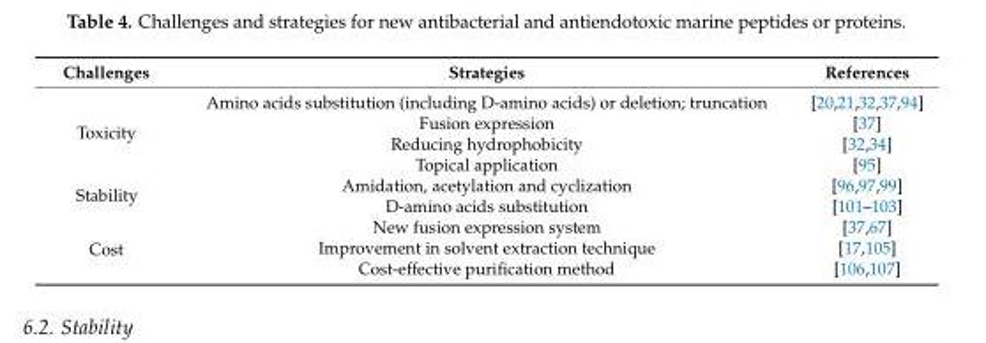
<table><thead><tr><td>Challenges</td><td>Strategies</td><td>References</td></tr></thead><tbody><tr><td rowspan="4">Toxicity</td><td>Amino acids substitution (including D-amino acids) or deletion; truncation</td><td>[20,21,32,37,94]</td></tr><tr><td>Fusion expression</td><td>[37]</td></tr><tr><td>Reducing hydrophobicity</td><td>[32,34]</td></tr><tr><td>Topical application</td><td>[95]</td></tr><tr><td rowspan="2">Stability</td><td>Amidation, acetylation and cyclization</td><td>[96,97,99]</td></tr><tr><td>D-amino acids substitution</td><td>[101–103]</td></tr><tr><td rowspan="3">Cost</td><td>New fusion expression system</td><td>[37,67]</td></tr><tr><td>Improvement in solvent extraction technique</td><td>[17,105]</td></tr><tr><td>Cost-effective purification method</td><td>[106,107]</td></tr></tbody></table>